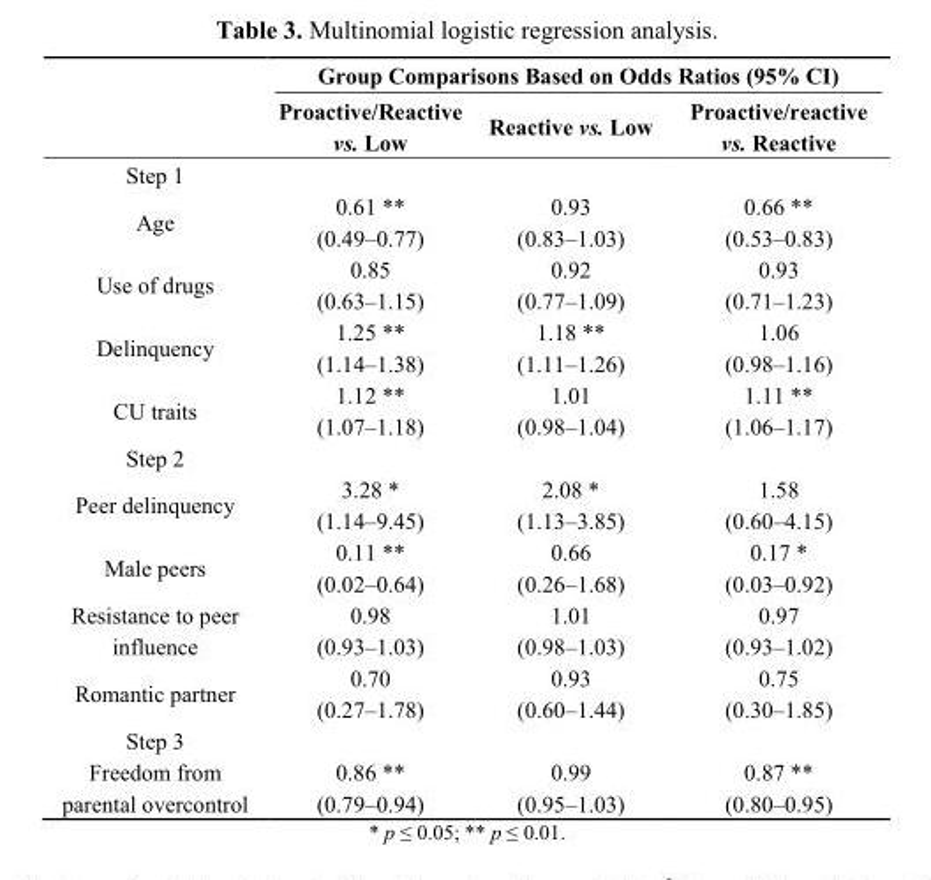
<table><thead><tr><td rowspan="2"></td><td colspan="3">Group Comparisons Based on Odds Ratios (95% CI)</td></tr><tr><td>Proactive/Reactive vs. Low</td><td>Reactive vs. Low</td><td>Proactive/reactive vs. Reactive</td></tr></thead><tbody><tr><td colspan="4">Step 1</td></tr><tr><td>Age</td><td>0.61 ** (0.49–0.77)</td><td>0.93 (0.83–1.03)</td><td>0.66 ** (0.53–0.83)</td></tr><tr><td>Use of drugs</td><td>0.85 (0.63–1.15)</td><td>0.92 (0.77–1.09)</td><td>0.93 (0.71–1.23)</td></tr><tr><td>Delinquency</td><td>1.25 ** (1.14–1.38)</td><td>1.18 ** (1.11–1.26)</td><td>1.06 (0.98–1.16)</td></tr><tr><td>CU traits</td><td>1.12 ** (1.07–1.18)</td><td>1.01 (0.98–1.04)</td><td>1.11 ** (1.06–1.17)</td></tr><tr><td colspan="4">Step 2</td></tr><tr><td>Peer delinquency</td><td>3.28 * (1.14–9.45)</td><td>2.08 * (1.13–3.85)</td><td>1.58 (0.60–4.15)</td></tr><tr><td>Male peers</td><td>0.11 ** (0.02–0.64)</td><td>0.66 (0.26–1.68)</td><td>0.17 * (0.03–0.92)</td></tr><tr><td>Resistance to peer influence</td><td>0.98 (0.93–1.03)</td><td>1.01 (0.98–1.03)</td><td>0.97 (0.93–1.02)</td></tr><tr><td>Romantic partner</td><td>0.70 (0.27–1.78)</td><td>0.93 (0.60–1.44)</td><td>0.75 (0.30–1.85)</td></tr><tr><td colspan="4">Step 3</td></tr><tr><td>Freedom from parental overcontrol</td><td>0.86 ** (0.79–0.94)</td><td>0.99 (0.95–1.03)</td><td>0.87 ** (0.80–0.95)</td></tr></tbody></table>